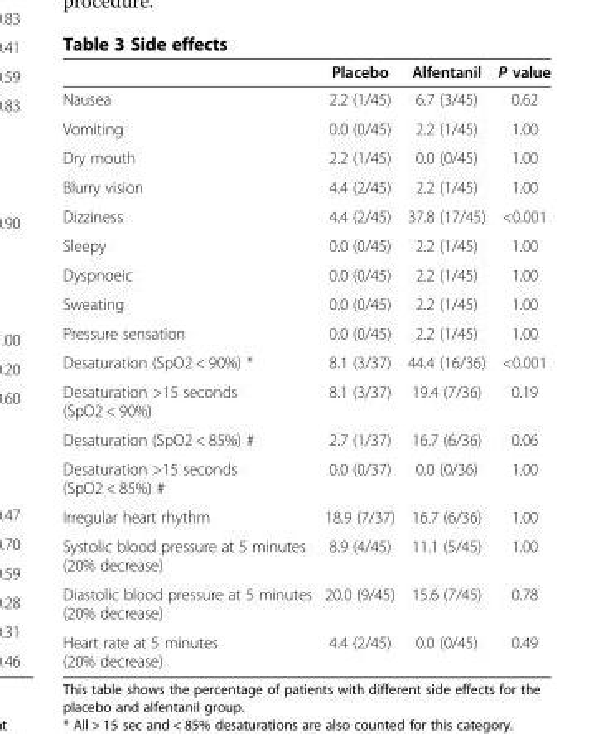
<table><thead><tr><td></td><td>Placebo</td><td>Alfentanil</td><td>P value</td></tr></thead><tbody><tr><td>Nausea</td><td>2.2 (1/45)</td><td>6.7 (3/45)</td><td>0.62</td></tr><tr><td>Vomiting</td><td>0.0 (0/45)</td><td>2.2 (1/45)</td><td>1.00</td></tr><tr><td>Dry mouth</td><td>2.2 (1/45)</td><td>0.0 (0/45)</td><td>1.00</td></tr><tr><td>Blurry vision</td><td>4.4 (2/45)</td><td>2.2 (1/45)</td><td>1.00</td></tr><tr><td>Dizziness</td><td>4.4 (2/45)</td><td>37.8 (17/45)</td><td>&lt;0.001</td></tr><tr><td>Sleepy</td><td>0.0 (0/45)</td><td>2.2 (1/45)</td><td>1.00</td></tr><tr><td>Dyspnoeic</td><td>0.0 (0/45)</td><td>2.2 (1/45)</td><td>1.00</td></tr><tr><td>Sweating</td><td>0.0 (0/45)</td><td>2.2 (1/45)</td><td>1.00</td></tr><tr><td>Pressure sensation</td><td>0.0 (0/45)</td><td>2.2 (1/45)</td><td>1.00</td></tr><tr><td>Desaturation (SpO2 &lt; 90%) *</td><td>8.1 (3/37)</td><td>44.4 (16/36)</td><td>&lt;0.001</td></tr><tr><td>Desaturation &gt;15 seconds (SpO2 &lt; 90%)</td><td>8.1 (3/37)</td><td>19.4 (7/36)</td><td>0.19</td></tr><tr><td>Desaturation (SpO2 &lt; 85%) #</td><td>2.7 (1/37)</td><td>16.7 (6/36)</td><td>0.06</td></tr><tr><td>Desaturation &gt;15 seconds (SpO2 &lt; 85%) #</td><td>0.0 (0/37)</td><td>0.0 (0/36)</td><td>1.00</td></tr><tr><td>Irregular heart rhythm</td><td>18.9 (7/37)</td><td>16.7 (6/36)</td><td>1.00</td></tr><tr><td>Systolic blood pressure at 5 minutes (20% decrease)</td><td>8.9 (4/45)</td><td>11.1 (5/45)</td><td>1.00</td></tr><tr><td>Diastolic blood pressure at 5 minutes (20% decrease)</td><td>20.0 (9/45)</td><td>15.6 (7/45)</td><td>0.78</td></tr><tr><td>Heart rate at 5 minutes (20% decrease)</td><td>4.4 (2/45)</td><td>0.0 (0/45)</td><td>0.49</td></tr></tbody></table>